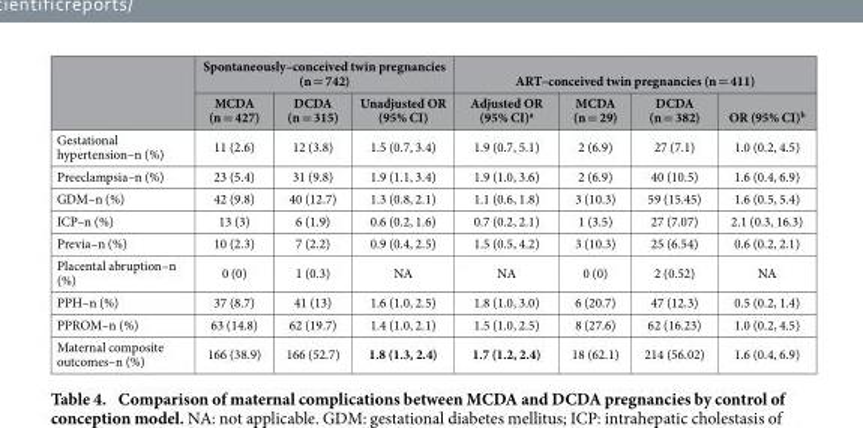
<table><thead><tr><td rowspan="2"></td><td colspan="3">Spontaneously–conceived twin pregnancies (n = 742)</td><td colspan="4">ART–conceived twin pregnancies (n = 411)</td></tr><tr><td>MCDA (n = 427)</td><td>DCDA (n = 315)</td><td>Unadjusted OR (95% CI)</td><td>Adjusted OR (95% CI)<sup>a</sup></td><td>MCDA (n = 29)</td><td>DCDA (n = 382)</td><td>OR (95% CI)<sup>b</sup></td></tr></thead><tbody><tr><td>Gestational hypertension–n (%)</td><td>11 (2.6)</td><td>12 (3.8)</td><td>1.5 (0.7, 3.4)</td><td>1.9 (0.7, 5.1)</td><td>2 (6.9)</td><td>27 (7.1)</td><td>1.0 (0.2, 4.5)</td></tr><tr><td>Preeclampsia–n (%)</td><td>23 (5.4)</td><td>31 (9.8)</td><td>1.9 (1.1, 3.4)</td><td>1.9 (1.0, 3.6)</td><td>2 (6.9)</td><td>40 (10.5)</td><td>1.6 (0.4, 6.9)</td></tr><tr><td>GDM–n (%)</td><td>42 (9.8)</td><td>40 (12.7)</td><td>1.3 (0.8, 2.1)</td><td>1.1 (0.6, 1.8)</td><td>3 (10.3)</td><td>59 (15.45)</td><td>1.6 (0.5, 5.4)</td></tr><tr><td>ICP–n (%)</td><td>13 (3)</td><td>6 (1.9)</td><td>0.6 (0.2, 1.6)</td><td>0.7 (0.2, 2.1)</td><td>1 (3.5)</td><td>27 (7.07)</td><td>2.1 (0.3, 16.3)</td></tr><tr><td>Previa–n (%)</td><td>10 (2.3)</td><td>7 (2.2)</td><td>0.9 (0.4, 2.5)</td><td>1.5 (0.5, 4.2)</td><td>3 (10.3)</td><td>25 (6.54)</td><td>0.6 (0.2, 2.1)</td></tr><tr><td>Placental abruption–n (%)</td><td>0 (0)</td><td>1 (0.3)</td><td>NA</td><td>NA</td><td>0 (0)</td><td>2 (0.52)</td><td>NA</td></tr><tr><td>PPH–n (%)</td><td>37 (8.7)</td><td>41 (13)</td><td>1.6 (1.0, 2.5)</td><td>1.8 (1.0, 3.0)</td><td>6 (20.7)</td><td>47 (12.3)</td><td>0.5 (0.2, 1.4)</td></tr><tr><td>PPROM–n (%)</td><td>63 (14.8)</td><td>62 (19.7)</td><td>1.4 (1.0, 2.1)</td><td>1.5 (1.0, 2.5)</td><td>8 (27.6)</td><td>62 (16.23)</td><td>1.0 (0.2, 4.5)</td></tr><tr><td>Maternal composite outcomes–n (%)</td><td>166 (38.9)</td><td>166 (52.7)</td><td>1.8 (1.3, 2.4)</td><td>1.7 (1.2, 2.4)</td><td>18 (62.1)</td><td>214 (56.02)</td><td>1.6 (0.4, 6.9)</td></tr></tbody></table>